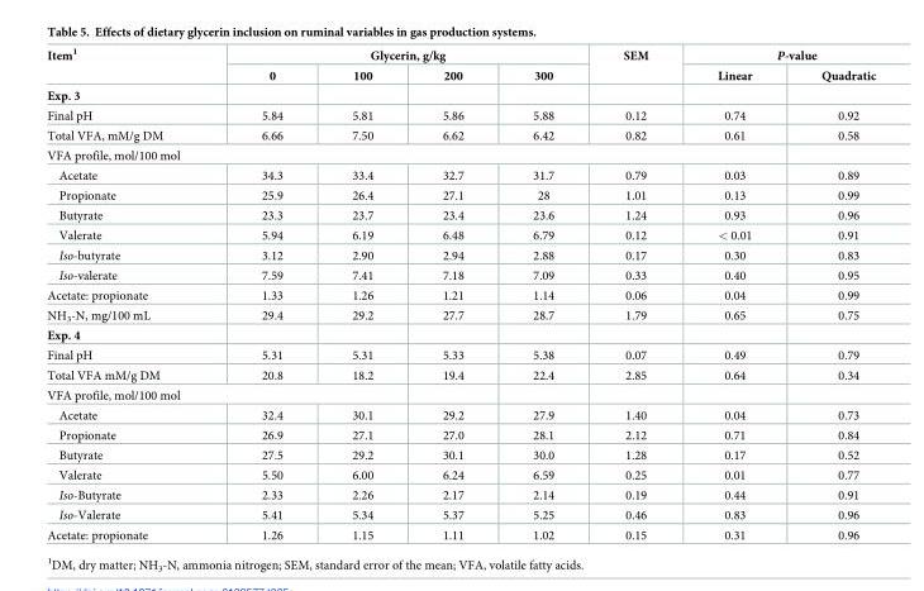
<table><thead><tr><td rowspan="2">Item<sup>1</sup></td><td colspan="4">Glycerin, g/kg</td><td rowspan="2">SEM</td><td colspan="2">P-value</td></tr><tr><td>0</td><td>100</td><td>200</td><td>300</td><td>Linear</td><td>Quadratic</td></tr></thead><tbody><tr><td colspan="8">Exp. 3</td></tr><tr><td>Final pH</td><td>5.84</td><td>5.81</td><td>5.86</td><td>5.88</td><td>0.12</td><td>0.74</td><td>0.92</td></tr><tr><td>Total VFA, mM/g DM</td><td>6.66</td><td>7.50</td><td>6.62</td><td>6.42</td><td>0.82</td><td>0.61</td><td>0.58</td></tr><tr><td colspan="8">VFA profile, mol/100 mol</td></tr><tr><td>Acetate</td><td>34.3</td><td>33.4</td><td>32.7</td><td>31.7</td><td>0.79</td><td>0.03</td><td>0.89</td></tr><tr><td>Propionate</td><td>25.9</td><td>26.4</td><td>27.1</td><td>28</td><td>1.01</td><td>0.13</td><td>0.99</td></tr><tr><td>Butyrate</td><td>23.3</td><td>23.7</td><td>23.4</td><td>23.6</td><td>1.24</td><td>0.93</td><td>0.96</td></tr><tr><td>Valerate</td><td>5.94</td><td>6.19</td><td>6.48</td><td>6.79</td><td>0.12</td><td>&lt; 0.01</td><td>0.91</td></tr><tr><td>Iso-butyrate</td><td>3.12</td><td>2.90</td><td>2.94</td><td>2.88</td><td>0.17</td><td>0.30</td><td>0.83</td></tr><tr><td>Iso-valerate</td><td>7.59</td><td>7.41</td><td>7.18</td><td>7.09</td><td>0.33</td><td>0.40</td><td>0.95</td></tr><tr><td>Acetate: propionate</td><td>1.33</td><td>1.26</td><td>1.21</td><td>1.14</td><td>0.06</td><td>0.04</td><td>0.99</td></tr><tr><td>NH<sub>3</sub>-N, mg/100 mL</td><td>29.4</td><td>29.2</td><td>27.7</td><td>28.7</td><td>1.79</td><td>0.65</td><td>0.75</td></tr><tr><td colspan="8">Exp. 4</td></tr><tr><td>Final pH</td><td>5.31</td><td>5.31</td><td>5.33</td><td>5.38</td><td>0.07</td><td>0.49</td><td>0.79</td></tr><tr><td>Total VFA mM/g DM</td><td>20.8</td><td>18.2</td><td>19.4</td><td>22.4</td><td>2.85</td><td>0.64</td><td>0.34</td></tr><tr><td colspan="8">VFA profile, mol/100 mol</td></tr><tr><td>Acetate</td><td>32.4</td><td>30.1</td><td>29.2</td><td>27.9</td><td>1.40</td><td>0.04</td><td>0.73</td></tr><tr><td>Propionate</td><td>26.9</td><td>27.1</td><td>27.0</td><td>28.1</td><td>2.12</td><td>0.71</td><td>0.84</td></tr><tr><td>Butyrate</td><td>27.5</td><td>29.2</td><td>30.1</td><td>30.0</td><td>1.28</td><td>0.17</td><td>0.52</td></tr><tr><td>Valerate</td><td>5.50</td><td>6.00</td><td>6.24</td><td>6.59</td><td>0.25</td><td>0.01</td><td>0.77</td></tr><tr><td>Iso-Butyrate</td><td>2.33</td><td>2.26</td><td>2.17</td><td>2.14</td><td>0.19</td><td>0.44</td><td>0.91</td></tr><tr><td>Iso-Valerate</td><td>5.41</td><td>5.34</td><td>5.37</td><td>5.25</td><td>0.46</td><td>0.83</td><td>0.96</td></tr><tr><td>Acetate: propionate</td><td>1.26</td><td>1.15</td><td>1.11</td><td>1.02</td><td>0.15</td><td>0.31</td><td>0.96</td></tr></tbody></table>